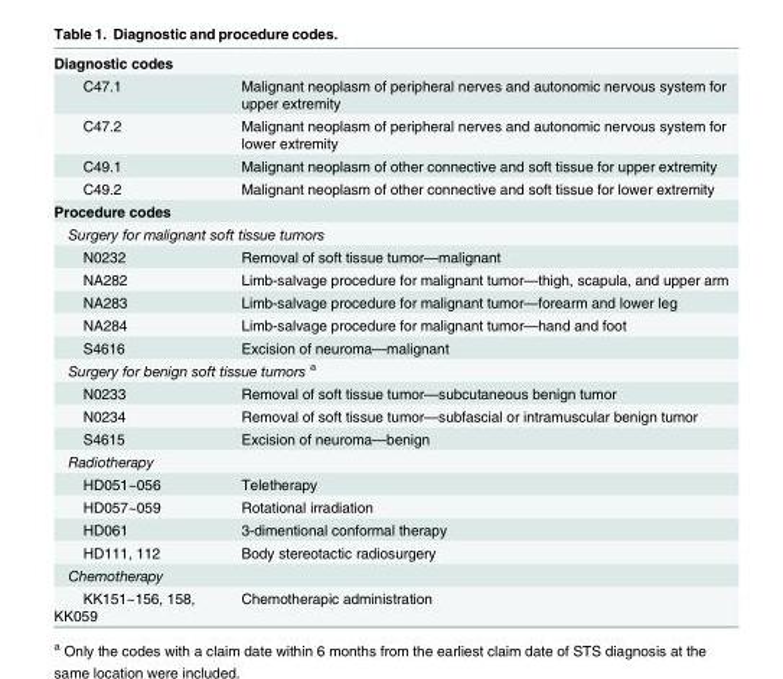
<table><tbody><tr><td colspan="2">Diagnostic codes</td></tr><tr><td>C47.1</td><td>Malignant neoplasm of peripheral nerves and autonomic nervous system for upper extremity</td></tr><tr><td>C47.2</td><td>Malignant neoplasm of peripheral nerves and autonomic nervous system for lower extremity</td></tr><tr><td>C49.1</td><td>Malignant neoplasm of other connective and soft tissue for upper extremity</td></tr><tr><td>C49.2</td><td>Malignant neoplasm of other connective and soft tissue for lower extremity</td></tr><tr><td colspan="2">Procedure codes</td></tr><tr><td colspan="2">Surgery for malignant soft tissue tumors</td></tr><tr><td>N0232</td><td>Removal of soft tissue tumor—malignant</td></tr><tr><td>NA282</td><td>Limb-salvage procedure for malignant tumor—thigh, scapula, and upper arm</td></tr><tr><td>NA283</td><td>Limb-salvage procedure for malignant tumor—forearm and lower leg</td></tr><tr><td>NA284</td><td>Limb-salvage procedure for malignant tumor—hand and foot</td></tr><tr><td>S4616</td><td>Excision of neuroma—malignant</td></tr><tr><td colspan="2">Surgery for benign soft tissue tumors <sup>a</sup></td></tr><tr><td>N0233</td><td>Removal of soft tissue tumor—subcutaneous benign tumor</td></tr><tr><td>N0234</td><td>Removal of soft tissue tumor—subfascial or intramuscular benign tumor</td></tr><tr><td>S4615</td><td>Excision of neuroma—benign</td></tr><tr><td colspan="2">Radiotherapy</td></tr><tr><td>HD051~056</td><td>Teletherapy</td></tr><tr><td>HD057~059</td><td>Rotational irradiation</td></tr><tr><td>HD061</td><td>3-dimentional conformal therapy</td></tr><tr><td>HD111, 112</td><td>Body stereotactic radiosurgery</td></tr><tr><td colspan="2">Chemotherapy</td></tr><tr><td>KK151~156, 158, KK059</td><td>Chemotherapic administration</td></tr></tbody></table>